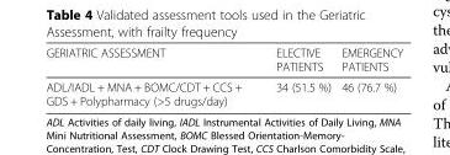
<table><thead><tr><td>GERIATRIC ASSESSMENT</td><td>ELECTIVE PATIENTS</td><td>EMERGENCY PATIENTS</td></tr></thead><tbody><tr><td>ADL/IADL + MNA + BOMC/CDT + CCS + GDS + Polypharmacy (&gt;5 drugs/day)</td><td>34 (51.5 %)</td><td>46 (76.7 %)</td></tr></tbody></table>